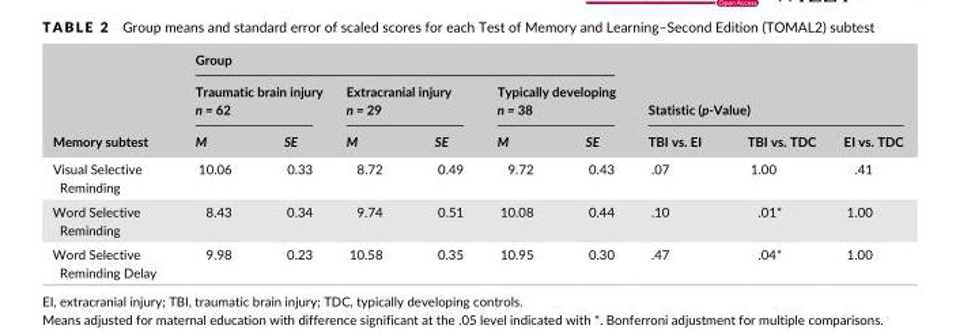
<table><thead><tr><td rowspan="3">Memory subtest</td><td colspan="6">Group</td><td></td><td></td><td></td></tr><tr><td colspan="2">Traumatic brain injury n = 62</td><td colspan="2">Extracranial injury n = 29</td><td colspan="2">Typically developing n = 38</td><td colspan="3">Statistic (p-Value)</td></tr><tr><td>M</td><td>SE</td><td>M</td><td>SE</td><td>M</td><td>SE</td><td>TBI vs. EI</td><td>TBI vs. TDC</td><td>EI vs. TDC</td></tr></thead><tbody><tr><td>Visual Selective Reminding</td><td>10.06</td><td>0.33</td><td>8.72</td><td>0.49</td><td>9.72</td><td>0.43</td><td>.07</td><td>1.00</td><td>.41</td></tr><tr><td>Word Selective Reminding</td><td>8.43</td><td>0.34</td><td>9.74</td><td>0.51</td><td>10.08</td><td>0.44</td><td>.10</td><td>.01*</td><td>1.00</td></tr><tr><td>Word Selective Reminding Delay</td><td>9.98</td><td>0.23</td><td>10.58</td><td>0.35</td><td>10.95</td><td>0.30</td><td>.47</td><td>.04*</td><td>1.00</td></tr></tbody></table>